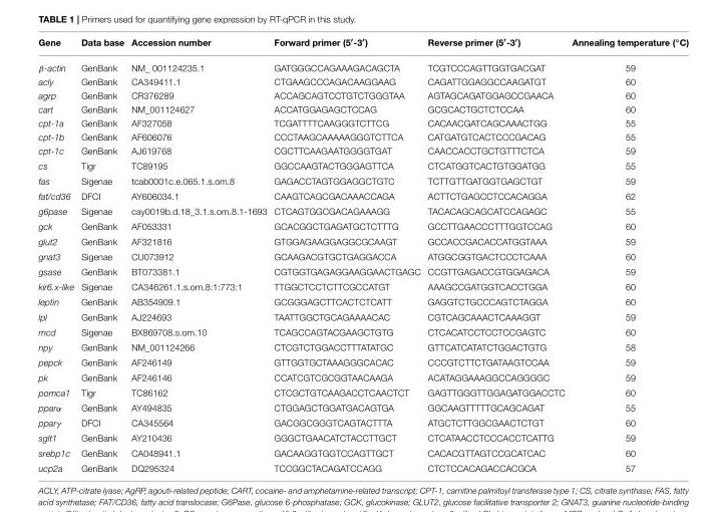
<table><thead><tr><td>Gene</td><td>Data base</td><td>Accession number</td><td>Forward primer (5′-3′)</td><td>Reverse primer (5′-3′)</td><td>Annealing temperature (◦C)</td></tr></thead><tbody><tr><td>β-actin</td><td>GenBank</td><td>NM_ 001124235.1</td><td>GATGGGCCAGAAAGACAGCTA</td><td>TCGTCCCAGTTGGTGACGAT</td><td>59</td></tr><tr><td>acly</td><td>GenBank</td><td>CA349411.1</td><td>CTGAAGCCCAGACAAGGAAG</td><td>CAGATTGGAGGCCAAGATGT</td><td>60</td></tr><tr><td>agrp</td><td>GenBank</td><td>CR376289</td><td>ACCAGCAGTCCTGTCTGGGTAA</td><td>AGTAGCAGATGGAGCCGAACA</td><td>60</td></tr><tr><td>cart</td><td>GenBank</td><td>NM_001124627</td><td>ACCATGGAGAGCTCCAG</td><td>GCGCACTGCTCTCCAA</td><td>60</td></tr><tr><td>cpt-1a</td><td>GenBank</td><td>AF327058</td><td>TCGATTTTCAAGGGTCTTCG</td><td>CACAACGATCAGCAAACTGG</td><td>55</td></tr><tr><td>cpt-1b</td><td>GenBank</td><td>AF606076</td><td>CCCTAAGCAAAAAGGGTCTTCA</td><td>CATGATGTCACTCCCGACAG</td><td>55</td></tr><tr><td>cpt-1c</td><td>GenBank</td><td>AJ619768</td><td>CGCTTCAAGAATGGGGTGAT</td><td>CAACCACCTGCTGTTTCTCA</td><td>59</td></tr><tr><td>cs</td><td>Tigr</td><td>TC89195</td><td>GGCCAAGTACTGGGAGTTCA</td><td>CTCATGGTCACTGTGGATGG</td><td>55</td></tr><tr><td>fas</td><td>Sigenae</td><td>tcab0001c.e.065.1.s.om.8</td><td>GAGACCTAGTGGAGGCTGTC</td><td>TCTTGTTGATGGTGAGCTGT</td><td>59</td></tr><tr><td>fat/cd36</td><td>DFCI</td><td>AY606034.1</td><td>CAAGTCAGCGACAAACCAGA</td><td>ACTTCTGAGCCTCCACAGGA</td><td>62</td></tr><tr><td>g6pase</td><td>Sigenae</td><td>cay0019b.d.18_3.1.s.om.8.1-1693</td><td>CTCAGTGGCGACAGAAAGG</td><td>TACACAGCAGCATCCAGAGC</td><td>55</td></tr><tr><td>gck</td><td>GenBank</td><td>AF053331</td><td>GCACGGCTGAGATGCTCTTTG</td><td>GCCTTGAACCCTTTGGTCCAG</td><td>60</td></tr><tr><td>glut2</td><td>GenBank</td><td>AF321816</td><td>GTGGAGAAGGAGGCGCAAGT</td><td>GCCACCGACACCATGGTAAA</td><td>59</td></tr><tr><td>gnat3</td><td>Sigenae</td><td>CU073912</td><td>GCAAGACGTGCTGAGGACCA</td><td>ATGGCGGTGACTCCCTCAAA</td><td>60</td></tr><tr><td>gsase</td><td>GenBank</td><td>BT073381.1</td><td>CGTGGTGAGAGGAAGGAACTGAGC</td><td>CCGTTGAGACCGTGGAGACA</td><td>59</td></tr><tr><td>kir6.x-like</td><td>Sigenae</td><td>CA346261.1.s.om.8:1:773:1</td><td>TTGGCTCCTCTTCGCCATGT</td><td>AAAGCCGATGGTCACCTGGA</td><td>60</td></tr><tr><td>leptin</td><td>GenBank</td><td>AB354909.1</td><td>GCGGGAGCTTCACTCTCATT</td><td>GAGGTCTGCCCAGTCTAGGA</td><td>60</td></tr><tr><td>lpl</td><td>GenBank</td><td>AJ224693</td><td>TAATTGGCTGCAGAAAACAC</td><td>CGTCAGCAAACTCAAAGGT</td><td>59</td></tr><tr><td>mcd</td><td>Sigenae</td><td>BX869708.s.om.10</td><td>TCAGCCAGTACGAAGCTGTG</td><td>CTCACATCCTCCTCCGAGTC</td><td>60</td></tr><tr><td>npy</td><td>GenBank</td><td>NM_001124266</td><td>CTCGTCTGGACCTTTATATGC</td><td>GTTCATCATATCTGGACTGTG</td><td>58</td></tr><tr><td>pepck</td><td>GenBank</td><td>AF246149</td><td>GTTGGTGCTAAAGGGCACAC</td><td>CCCGTCTTCTGATAAGTCCAA</td><td>59</td></tr><tr><td>pk</td><td>GenBank</td><td>AF246146</td><td>CCATCGTCGCGGTAACAAGA</td><td>ACATAGGAAAGGCCAGGGGC</td><td>59</td></tr><tr><td>pomca1</td><td>Tigr</td><td>TC86162</td><td>CTCGCTGTCAAGACCTCAACTCT</td><td>GAGTTGGGTTGGAGATGGACCTC</td><td>60</td></tr><tr><td>pparα</td><td>GenBank</td><td>AY494835</td><td>CTGGAGCTGGATGACAGTGA</td><td>GGCAAGTTTTTGCAGCAGAT</td><td>55</td></tr><tr><td>pparγ</td><td>DFCI</td><td>CA345564</td><td>GACGGCGGGTCAGTACTTTA</td><td>ATGCTCTTGGCGAACTCTGT</td><td>60</td></tr><tr><td>sglt1</td><td>GenBank</td><td>AY210436</td><td>GGGCTGAACATCTACCTTGCT</td><td>CTCATAACCTCCCACCTCATTG</td><td>59</td></tr><tr><td>srebp1c</td><td>GenBank</td><td>CA048941.1</td><td>GACAAGGTGGTCCAGTTGCT</td><td>CACACGTTAGTCCGCATCAC</td><td>60</td></tr><tr><td>ucp2a</td><td>GenBank</td><td>DQ295324</td><td>TCCGGCTACAGATCCAGG</td><td>CTCTCCACAGACCACGCA</td><td>57</td></tr></tbody></table>